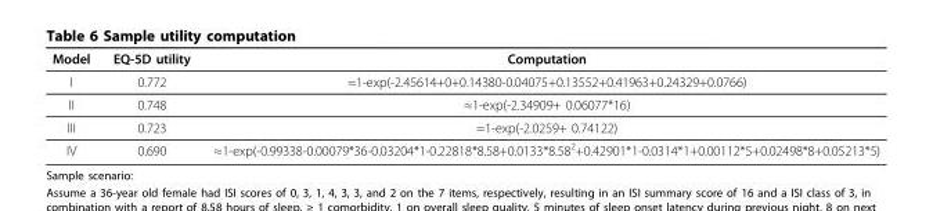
<table><thead><tr><td>Model</td><td>EQ-5D utility</td><td>Computation</td></tr></thead><tbody><tr><td>I</td><td>0.772</td><td>≈1-exp(-2.45614+0+0.14380-0.04075+0.13552+0.41963+0.24329+0.0766)</td></tr><tr><td>II</td><td>0.748</td><td>≈1-exp(-2.34909+ 0.06077*16)</td></tr><tr><td>III</td><td>0.723</td><td>≈1-exp(-2.0259+ 0.74122)</td></tr><tr><td>IV</td><td>0.690</td><td>≈1-exp(-0.99338-0.00079*36-0.03204*1-0.22818*8.58+0.0133*8.58<sup>2</sup>+0.42901*1-0.0314*1+0.00112*5+0.02498*8+0.05213*5)</td></tr></tbody></table>